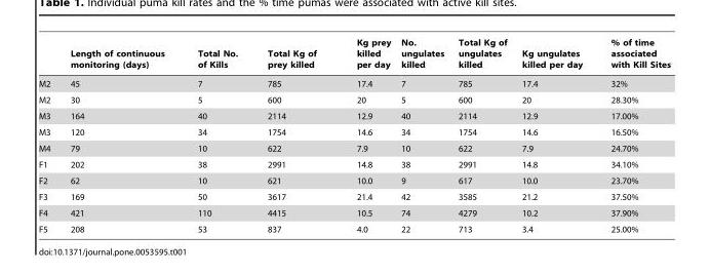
<table><thead><tr><td></td><td>Length of continuous monitoring (days)</td><td>Total No. of Kills</td><td>Total Kg of prey killed</td><td>Kg prey killed per day</td><td>No. ungulates killed</td><td>Total Kg of ungulates killed</td><td>Kg ungulates killed per day</td><td>% of time associated with Kill Sites</td></tr></thead><tbody><tr><td>M2</td><td>45</td><td>7</td><td>785</td><td>17.4</td><td>7</td><td>785</td><td>17.4</td><td>32%</td></tr><tr><td>M2</td><td>30</td><td>5</td><td>600</td><td>20</td><td>5</td><td>600</td><td>20</td><td>28.30%</td></tr><tr><td>M3</td><td>164</td><td>40</td><td>2114</td><td>12.9</td><td>40</td><td>2114</td><td>12.9</td><td>17.00%</td></tr><tr><td>M3</td><td>120</td><td>34</td><td>1754</td><td>14.6</td><td>34</td><td>1754</td><td>14.6</td><td>16.50%</td></tr><tr><td>M4</td><td>79</td><td>10</td><td>622</td><td>7.9</td><td>10</td><td>622</td><td>7.9</td><td>24.70%</td></tr><tr><td>F1</td><td>202</td><td>38</td><td>2991</td><td>14.8</td><td>38</td><td>2991</td><td>14.8</td><td>34.10%</td></tr><tr><td>F2</td><td>62</td><td>10</td><td>621</td><td>10.0</td><td>9</td><td>617</td><td>10.0</td><td>23.70%</td></tr><tr><td>F3</td><td>169</td><td>50</td><td>3617</td><td>21.4</td><td>42</td><td>3585</td><td>21.2</td><td>37.50%</td></tr><tr><td>F4</td><td>421</td><td>110</td><td>4415</td><td>10.5</td><td>74</td><td>4279</td><td>10.2</td><td>37.90%</td></tr><tr><td>F5</td><td>208</td><td>53</td><td>837</td><td>4.0</td><td>22</td><td>713</td><td>3.4</td><td>25.00%</td></tr></tbody></table>